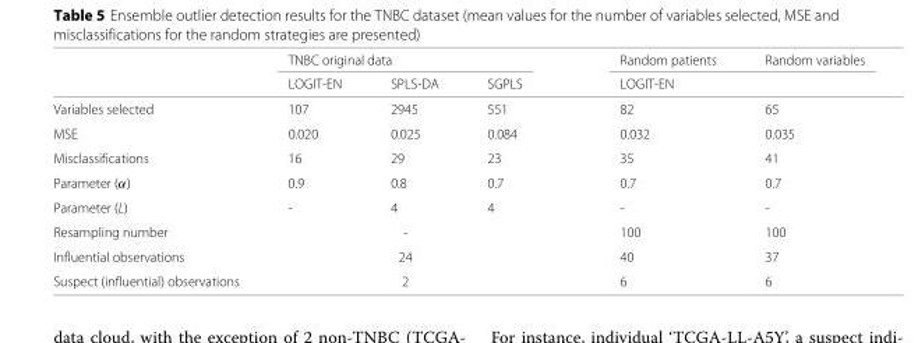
<table><thead><tr><td rowspan="2"></td><td colspan="3">TNBC original data</td><td>Random patients</td><td>Random variables</td></tr><tr><td>LOGIT-EN</td><td>SPLS-DA</td><td>SGPLS</td><td colspan="2">LOGIT-EN</td></tr></thead><tbody><tr><td>Variables selected</td><td>107</td><td>2945</td><td>551</td><td>82</td><td>65</td></tr><tr><td>MSE</td><td>0.020</td><td>0.025</td><td>0.084</td><td>0.032</td><td>0.035</td></tr><tr><td>Misclassifications</td><td>16</td><td>29</td><td>23</td><td>35</td><td>41</td></tr><tr><td>Parameter (α)</td><td>0.9</td><td>0.8</td><td>0.7</td><td>0.7</td><td>0.7</td></tr><tr><td>Parameter (L)</td><td>-</td><td>4</td><td>4</td><td>-</td><td>-</td></tr><tr><td>Resampling number</td><td colspan="3">-</td><td>100</td><td>100</td></tr><tr><td>Influential observations</td><td colspan="3">24</td><td>40</td><td>37</td></tr><tr><td>Suspect (influential) observations</td><td colspan="3">2</td><td>6</td><td>6</td></tr></tbody></table>